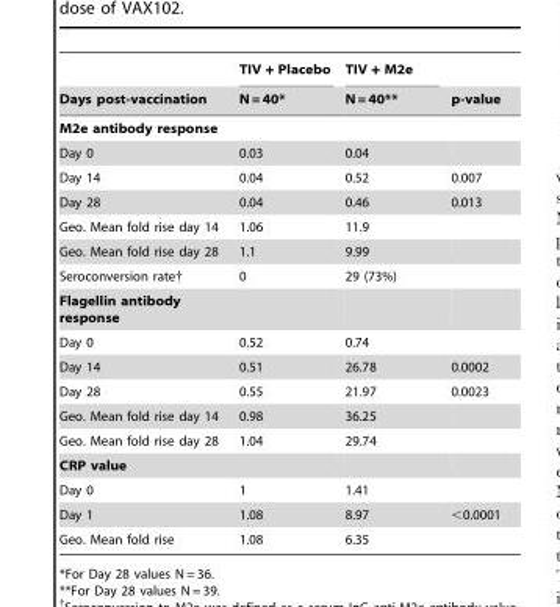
<table><thead><tr><td rowspan="2">Days post-vaccination</td><td rowspan="2">TIV + Placebo N = 40*</td><td rowspan="2">TIV + M2e N = 40**</td><td rowspan="2">p-value</td></tr><tr></tr></thead><tbody><tr><td colspan="4">M2e antibody response</td></tr><tr><td>Day 0</td><td>0.03</td><td>0.04</td><td></td></tr><tr><td>Day 14</td><td>0.04</td><td>0.52</td><td>0.007</td></tr><tr><td>Day 28</td><td>0.04</td><td>0.46</td><td>0.013</td></tr><tr><td>Geo. Mean fold rise day 14</td><td>1.06</td><td>11.9</td><td></td></tr><tr><td>Geo. Mean fold rise day 28</td><td>1.1</td><td>9.99</td><td></td></tr><tr><td>Seroconversion rate†</td><td>0</td><td>29 (73%)</td><td></td></tr><tr><td colspan="4">Flagellin antibody response</td></tr><tr><td>Day 0</td><td>0.52</td><td>0.74</td><td></td></tr><tr><td>Day 14</td><td>0.51</td><td>26.78</td><td>0.0002</td></tr><tr><td>Day 28</td><td>0.55</td><td>21.97</td><td>0.0023</td></tr><tr><td>Geo. Mean fold rise day 14</td><td>0.98</td><td>36.25</td><td></td></tr><tr><td>Geo. Mean fold rise day 28</td><td>1.04</td><td>29.74</td><td></td></tr><tr><td colspan="4">CRP value</td></tr><tr><td>Day 0</td><td>1</td><td>1.41</td><td></td></tr><tr><td>Day 1</td><td>1.08</td><td>8.97</td><td>&lt;0.0001</td></tr><tr><td>Geo. Mean fold rise</td><td>1.08</td><td>6.35</td><td></td></tr></tbody></table>